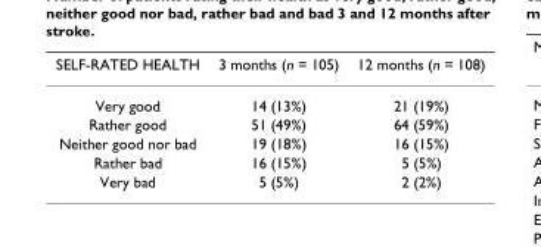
<table><thead><tr><td>SELF-RATED HEALTH</td><td>3 months (n = 105)</td><td>12 months (n = 108)</td></tr></thead><tbody><tr><td>Very good</td><td>14 (13%)</td><td>21 (19%)</td></tr><tr><td>Rather good</td><td>51 (49%)</td><td>64 (59%)</td></tr><tr><td>Neither good nor bad</td><td>19 (18%)</td><td>16 (15%)</td></tr><tr><td>Rather bad</td><td>16 (15%)</td><td>5 (5%)</td></tr><tr><td>Very bad</td><td>5 (5%)</td><td>2 (2%)</td></tr></tbody></table>